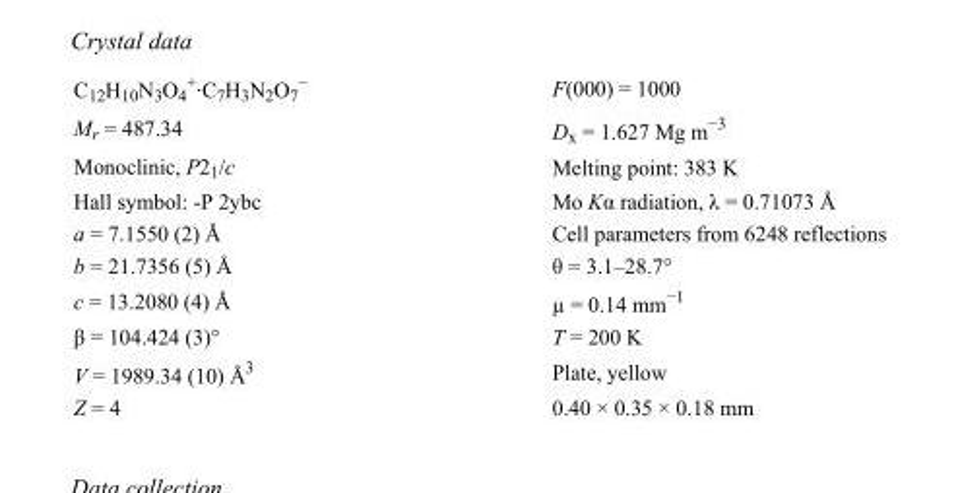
<table><tbody><tr><td>C<sub>12</sub>H<sub>10</sub>N<sub>3</sub>O<sub>4</sub> <sup>+</sup>·C<sub>7</sub>H<sub>3</sub>N<sub>2</sub>O<sub>7</sub> <sup>−</sup></td><td>F(000) = 1000</td></tr><tr><td>M<sub>r</sub> = 487.34</td><td>D<sub>x</sub> = 1.627 Mg m<sup>−3</sup></td></tr><tr><td>Monoclinic, P2<sub>1</sub>/c</td><td>Melting point: 383 K</td></tr><tr><td>Hall symbol: -P 2ybc</td><td>Mo Kα radiation, λ = 0.71073 Å</td></tr><tr><td>a = 7.1550 (2) Å</td><td>Cell parameters from 6248 reflections</td></tr><tr><td>b = 21.7356 (5) Å</td><td>θ = 3.1–28.7°</td></tr><tr><td>c = 13.2080 (4) Å</td><td>µ = 0.14 mm<sup>−1</sup></td></tr><tr><td>β = 104.424 (3)°</td><td>T = 200 K</td></tr><tr><td>V = 1989.34 (10) Å<sup>3</sup></td><td>Plate, yellow</td></tr><tr><td>Z = 4</td><td>0.40 × 0.35 × 0.18 mm</td></tr></tbody></table>